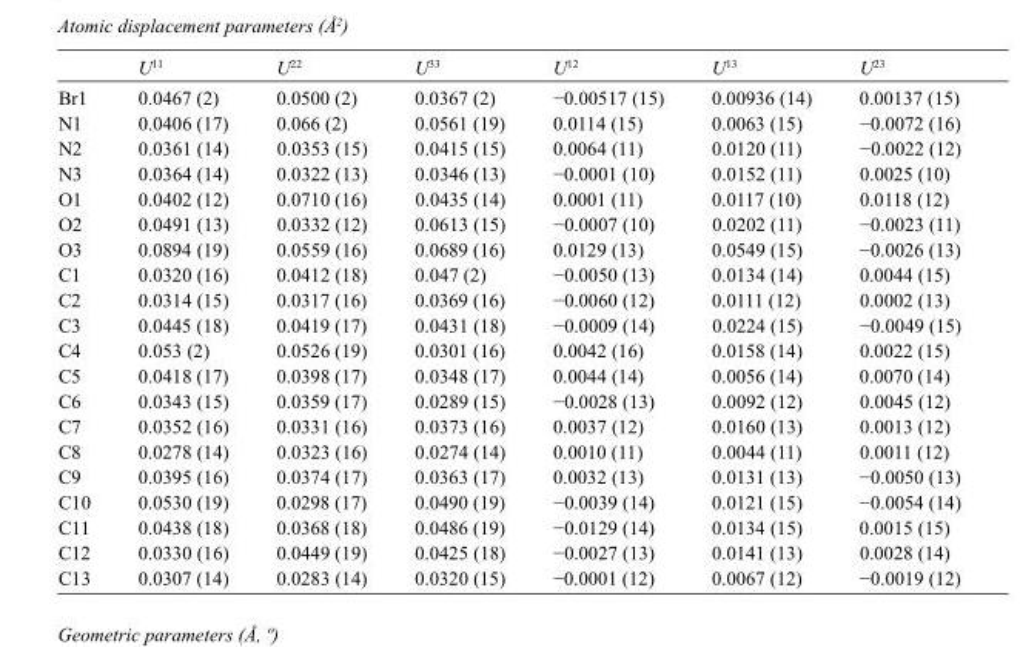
<table><thead><tr><td></td><td>U<sup>11</sup></td><td>U<sup>22</sup></td><td>U<sup>33</sup></td><td>U<sup>12</sup></td><td>U<sup>13</sup></td><td>U<sup>23</sup></td></tr></thead><tbody><tr><td>Br1</td><td>0.0467 (2)</td><td>0.0500 (2)</td><td>0.0367 (2)</td><td>−0.00517 (15)</td><td>0.00936 (14)</td><td>0.00137 (15)</td></tr><tr><td>N1</td><td>0.0406 (17)</td><td>0.066 (2)</td><td>0.0561 (19)</td><td>0.0114 (15)</td><td>0.0063 (15)</td><td>−0.0072 (16)</td></tr><tr><td>N2</td><td>0.0361 (14)</td><td>0.0353 (15)</td><td>0.0415 (15)</td><td>0.0064 (11)</td><td>0.0120 (11)</td><td>−0.0022 (12)</td></tr><tr><td>N3</td><td>0.0364 (14)</td><td>0.0322 (13)</td><td>0.0346 (13)</td><td>−0.0001 (10)</td><td>0.0152 (11)</td><td>0.0025 (10)</td></tr><tr><td>O1</td><td>0.0402 (12)</td><td>0.0710 (16)</td><td>0.0435 (14)</td><td>0.0001 (11)</td><td>0.0117 (10)</td><td>0.0118 (12)</td></tr><tr><td>O2</td><td>0.0491 (13)</td><td>0.0332 (12)</td><td>0.0613 (15)</td><td>−0.0007 (10)</td><td>0.0202 (11)</td><td>−0.0023 (11)</td></tr><tr><td>O3</td><td>0.0894 (19)</td><td>0.0559 (16)</td><td>0.0689 (16)</td><td>0.0129 (13)</td><td>0.0549 (15)</td><td>−0.0026 (13)</td></tr><tr><td>C1</td><td>0.0320 (16)</td><td>0.0412 (18)</td><td>0.047 (2)</td><td>−0.0050 (13)</td><td>0.0134 (14)</td><td>0.0044 (15)</td></tr><tr><td>C2</td><td>0.0314 (15)</td><td>0.0317 (16)</td><td>0.0369 (16)</td><td>−0.0060 (12)</td><td>0.0111 (12)</td><td>0.0002 (13)</td></tr><tr><td>C3</td><td>0.0445 (18)</td><td>0.0419 (17)</td><td>0.0431 (18)</td><td>−0.0009 (14)</td><td>0.0224 (15)</td><td>−0.0049 (15)</td></tr><tr><td>C4</td><td>0.053 (2)</td><td>0.0526 (19)</td><td>0.0301 (16)</td><td>0.0042 (16)</td><td>0.0158 (14)</td><td>0.0022 (15)</td></tr><tr><td>C5</td><td>0.0418 (17)</td><td>0.0398 (17)</td><td>0.0348 (17)</td><td>0.0044 (14)</td><td>0.0056 (14)</td><td>0.0070 (14)</td></tr><tr><td>C6</td><td>0.0343 (15)</td><td>0.0359 (17)</td><td>0.0289 (15)</td><td>−0.0028 (13)</td><td>0.0092 (12)</td><td>0.0045 (12)</td></tr><tr><td>C7</td><td>0.0352 (16)</td><td>0.0331 (16)</td><td>0.0373 (16)</td><td>0.0037 (12)</td><td>0.0160 (13)</td><td>0.0013 (12)</td></tr><tr><td>C8</td><td>0.0278 (14)</td><td>0.0323 (16)</td><td>0.0274 (14)</td><td>0.0010 (11)</td><td>0.0044 (11)</td><td>0.0011 (12)</td></tr><tr><td>C9</td><td>0.0395 (16)</td><td>0.0374 (17)</td><td>0.0363 (17)</td><td>0.0032 (13)</td><td>0.0131 (13)</td><td>−0.0050 (13)</td></tr><tr><td>C10</td><td>0.0530 (19)</td><td>0.0298 (17)</td><td>0.0490 (19)</td><td>−0.0039 (14)</td><td>0.0121 (15)</td><td>−0.0054 (14)</td></tr><tr><td>C11</td><td>0.0438 (18)</td><td>0.0368 (18)</td><td>0.0486 (19)</td><td>−0.0129 (14)</td><td>0.0134 (15)</td><td>0.0015 (15)</td></tr><tr><td>C12</td><td>0.0330 (16)</td><td>0.0449 (19)</td><td>0.0425 (18)</td><td>−0.0027 (13)</td><td>0.0141 (13)</td><td>0.0028 (14)</td></tr><tr><td>C13</td><td>0.0307 (14)</td><td>0.0283 (14)</td><td>0.0320 (15)</td><td>−0.0001 (12)</td><td>0.0067 (12)</td><td>−0.0019 (12)</td></tr></tbody></table>